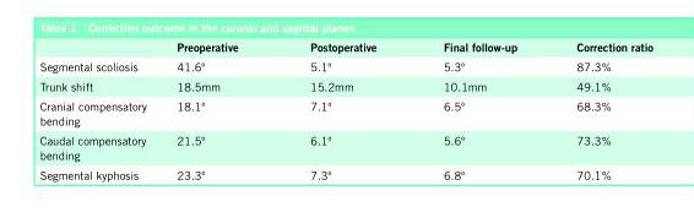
<table><thead><tr><td></td><td>Preoperative</td><td>Postoperative</td><td>Final follow-up</td><td>Correction ratio</td></tr></thead><tbody><tr><td>Segmental scoliosis</td><td>41.6º</td><td>5.1º</td><td>5.3º</td><td>87.3%</td></tr><tr><td>Trunk shift</td><td>18.5mm</td><td>15.2mm</td><td>10.1mm</td><td>49.1%</td></tr><tr><td>Cranial compensatory bending</td><td>18.1º</td><td>7.1º</td><td>6.5º</td><td>68.3%</td></tr><tr><td>Caudal compensatory bending</td><td>21.5º</td><td>6.1º</td><td>5.6º</td><td>73.3%</td></tr><tr><td>Segmental kyphosis</td><td>23.3º</td><td>7.3º</td><td>6.8º</td><td>70.1%</td></tr></tbody></table>